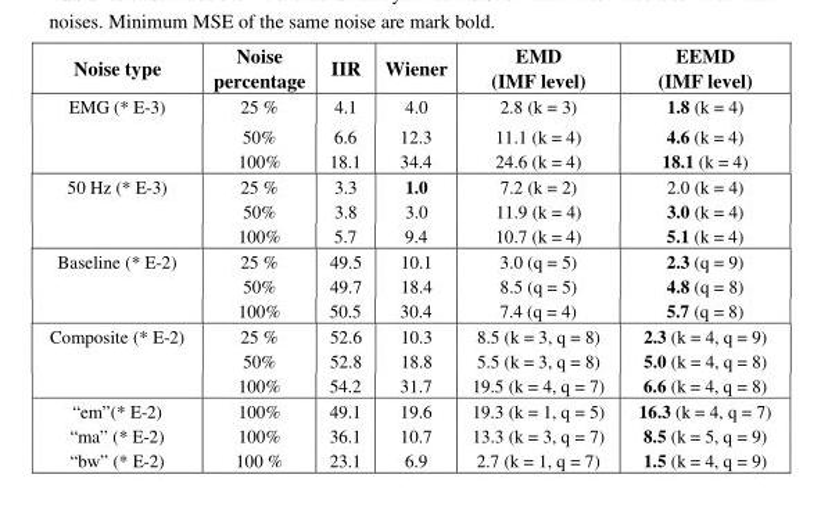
<table><thead><tr><td>Noise type</td><td>Noise percentage</td><td>IIR</td><td>Wiener</td><td>EMD (IMF level)</td><td>EEMD (IMF level)</td></tr></thead><tbody><tr><td rowspan="3">EMG (* E-3)</td><td>25 %</td><td>4.1</td><td>4.0</td><td>2.8 (k = 3)</td><td>1.8 (k = 4)</td></tr><tr><td>50%</td><td>6.6</td><td>12.3</td><td>11.1 (k = 4)</td><td>4.6 (k = 4)</td></tr><tr><td>100%</td><td>18.1</td><td>34.4</td><td>24.6 (k = 4)</td><td>18.1 (k = 4)</td></tr><tr><td rowspan="3">50 Hz (* E-3)</td><td>25 %</td><td>3.3</td><td>1.0</td><td>7.2 (k = 2)</td><td>2.0 (k = 4)</td></tr><tr><td>50%</td><td>3.8</td><td>3.0</td><td>11.9 (k = 4)</td><td>3.0 (k = 4)</td></tr><tr><td>100%</td><td>5.7</td><td>9.4</td><td>10.7 (k = 4)</td><td>5.1 (k = 4)</td></tr><tr><td rowspan="3">Baseline (* E-2)</td><td>25 %</td><td>49.5</td><td>10.1</td><td>3.0 (q = 5)</td><td>2.3 (q = 9)</td></tr><tr><td>50%</td><td>49.7</td><td>18.4</td><td>8.5 (q = 5)</td><td>4.8 (q = 8)</td></tr><tr><td>100%</td><td>50.5</td><td>30.4</td><td>7.4 (q = 4)</td><td>5.7 (q = 8)</td></tr><tr><td rowspan="3">Composite (* E-2)</td><td>25 %</td><td>52.6</td><td>10.3</td><td>8.5 (k = 3, q = 8)</td><td>2.3 (k = 4, q = 9)</td></tr><tr><td>50%</td><td>52.8</td><td>18.8</td><td>5.5 (k = 3, q = 8)</td><td>5.0 (k = 4, q = 8)</td></tr><tr><td>100%</td><td>54.2</td><td>31.7</td><td>19.5 (k = 4, q = 7)</td><td>6.6 (k = 4, q = 8)</td></tr><tr><td>“em”(* E-2)</td><td>100%</td><td>49.1</td><td>19.6</td><td>19.3 (k = 1, q = 5)</td><td>16.3 (k = 4, q = 7)</td></tr><tr><td>“ma” (* E-2)</td><td>100%</td><td>36.1</td><td>10.7</td><td>13.3 (k = 3, q = 7)</td><td>8.5 (k = 5, q = 9)</td></tr><tr><td>“bw” (* E-2)</td><td>100 %</td><td>23.1</td><td>6.9</td><td>2.7 (k = 1, q = 7)</td><td>1.5 (k = 4, q = 9)</td></tr></tbody></table>